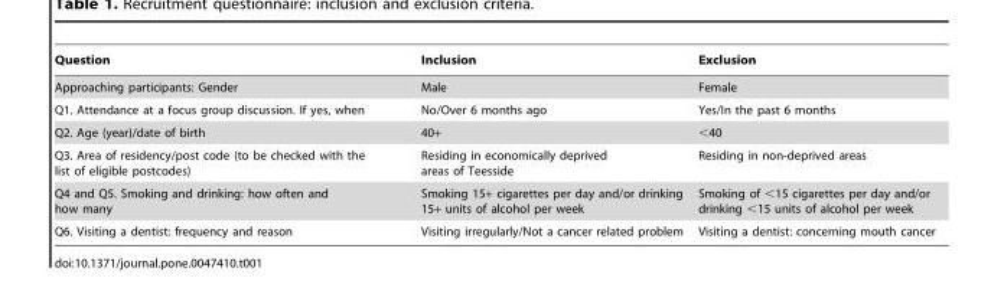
<table><thead><tr><td>Question</td><td>Inclusion</td><td>Exclusion</td></tr></thead><tbody><tr><td>Approaching participants: Gender</td><td>Male</td><td>Female</td></tr><tr><td>Q1. Attendance at a focus group discussion. If yes, when</td><td>No/Over 6 months ago</td><td>Yes/In the past 6 months</td></tr><tr><td>Q2. Age (year)/date of birth</td><td>40+</td><td>&lt;40</td></tr><tr><td>Q3. Area of residency/post code (to be checked with the list of eligible postcodes)</td><td>Residing in economically deprived areas of Teesside</td><td>Residing in non-deprived areas</td></tr><tr><td>Q4 and Q5. Smoking and drinking: how often and how many</td><td>Smoking 15+ cigarettes per day and/or drinking 15+ units of alcohol per week</td><td>Smoking of &lt;15 cigarettes per day and/or drinking &lt;15 units of alcohol per week</td></tr><tr><td>Q6. Visiting a dentist: frequency and reason</td><td>Visiting irregularly/Not a cancer related problem</td><td>Visiting a dentist: concerning mouth cancer</td></tr></tbody></table>